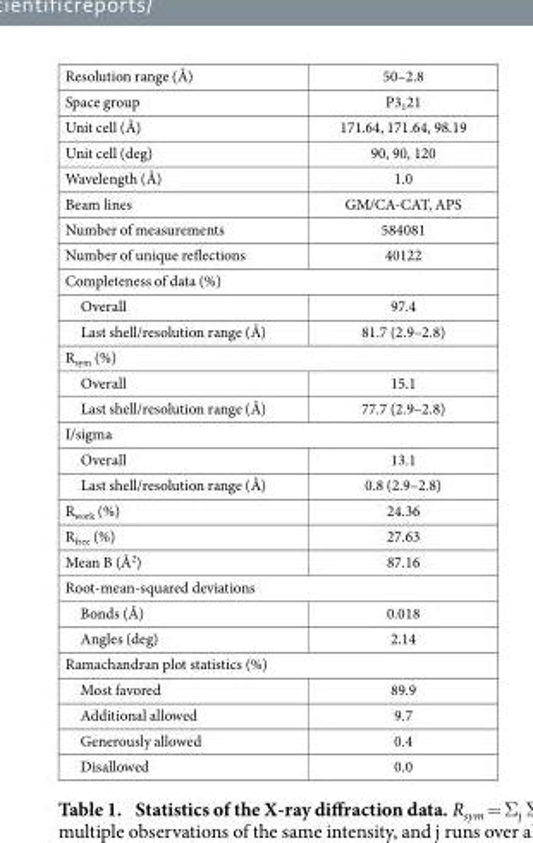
<table><tbody><tr><td>Resolution range (Å)</td><td>50–2.8</td></tr><tr><td>Space group</td><td>P3<sub>1</sub>21</td></tr><tr><td>Unit cell (Å)</td><td>171.64, 171.64, 98.19</td></tr><tr><td>Unit cell (deg)</td><td>90, 90, 120</td></tr><tr><td>Wavelength (Å)</td><td>1.0</td></tr><tr><td>Beam lines</td><td>GM/CA-CAT, APS</td></tr><tr><td>Number of measurements</td><td>584081</td></tr><tr><td>Number of unique reflections</td><td>40122</td></tr><tr><td colspan="2">Completeness of data (%)</td></tr><tr><td>Overall</td><td>97.4</td></tr><tr><td>Last shell/resolution range (Å)</td><td>81.7 (2.9–2.8)</td></tr><tr><td colspan="2">R<sub>sym</sub> (%)</td></tr><tr><td>Overall</td><td>15.1</td></tr><tr><td>Last shell/resolution range (Å)</td><td>77.7 (2.9–2.8)</td></tr><tr><td colspan="2">I/sigma</td></tr><tr><td>Overall</td><td>13.1</td></tr><tr><td>Last shell/resolution range (Å)</td><td>0.8 (2.9–2.8)</td></tr><tr><td>R<sub>work</sub> (%)</td><td>24.36</td></tr><tr><td>R<sub>free</sub> (%)</td><td>27.63</td></tr><tr><td>Mean B (Å<sup>2</sup>)</td><td>87.16</td></tr><tr><td colspan="2">Root-mean-squared deviations</td></tr><tr><td>Bonds (Å)</td><td>0.018</td></tr><tr><td>Angles (deg)</td><td>2.14</td></tr><tr><td colspan="2">Ramachandran plot statistics (%)</td></tr><tr><td>Most favored</td><td>89.9</td></tr><tr><td>Additional allowed</td><td>9.7</td></tr><tr><td>Generously allowed</td><td>0.4</td></tr><tr><td>Disallowed</td><td>0.0</td></tr></tbody></table>